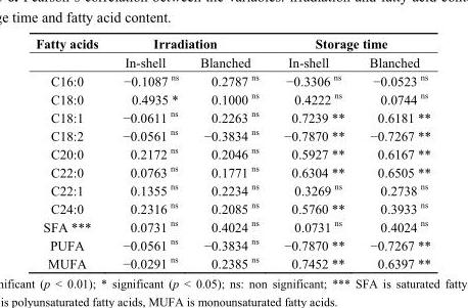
<table><thead><tr><td rowspan="2">Fatty acids</td><td colspan="2">Irradiation</td><td colspan="2">Storage time</td></tr><tr><td>In-shell</td><td>Blanched</td><td>In-shell</td><td>Blanched</td></tr></thead><tbody><tr><td>C16:0</td><td>−0.1087 <sup>ns</sup></td><td>0.2787 <sup>ns</sup></td><td>−0.3306 <sup>ns</sup></td><td>−0.0523 <sup>ns</sup></td></tr><tr><td>C18:0</td><td>0.4935 *</td><td>0.1000 <sup>ns</sup></td><td>0.4222 <sup>ns</sup></td><td>0.0744 <sup>ns</sup></td></tr><tr><td>C18:1</td><td>−0.0611 <sup>ns</sup></td><td>0.2263 <sup>ns</sup></td><td>0.7239 **</td><td>0.6181 **</td></tr><tr><td>C18:2</td><td>−0.0561 <sup>ns</sup></td><td>−0.3834 <sup>ns</sup></td><td>−0.7870 **</td><td>−0.7267 **</td></tr><tr><td>C20:0</td><td>0.2172 <sup>ns</sup></td><td>0.2046 <sup>ns</sup></td><td>0.5927 **</td><td>0.6167 **</td></tr><tr><td>C22:0</td><td>0.0763 <sup>ns</sup></td><td>0.1771 <sup>ns</sup></td><td>0.6304 **</td><td>0.6505 **</td></tr><tr><td>C22:1</td><td>0.1355 <sup>ns</sup></td><td>0.2234 <sup>ns</sup></td><td>0.3269 <sup>ns</sup></td><td>0.2738 <sup>ns</sup></td></tr><tr><td>C24:0</td><td>0.2316 <sup>ns</sup></td><td>0.2085 <sup>ns</sup></td><td>0.5760 **</td><td>0.3933 <sup>ns</sup></td></tr><tr><td>SFA ***</td><td>0.0731 <sup>ns</sup></td><td>0.4024 <sup>ns</sup></td><td>0.0731 <sup>ns</sup></td><td>0.4024 <sup>ns</sup></td></tr><tr><td>PUFA</td><td>−0.0561 <sup>ns</sup></td><td>−0.3834 <sup>ns</sup></td><td>−0.7870 **</td><td>−0.7267 **</td></tr><tr><td>MUFA</td><td>−0.0291 <sup>ns</sup></td><td>0.2385 <sup>ns</sup></td><td>0.7452 **</td><td>0.6397 **</td></tr></tbody></table>